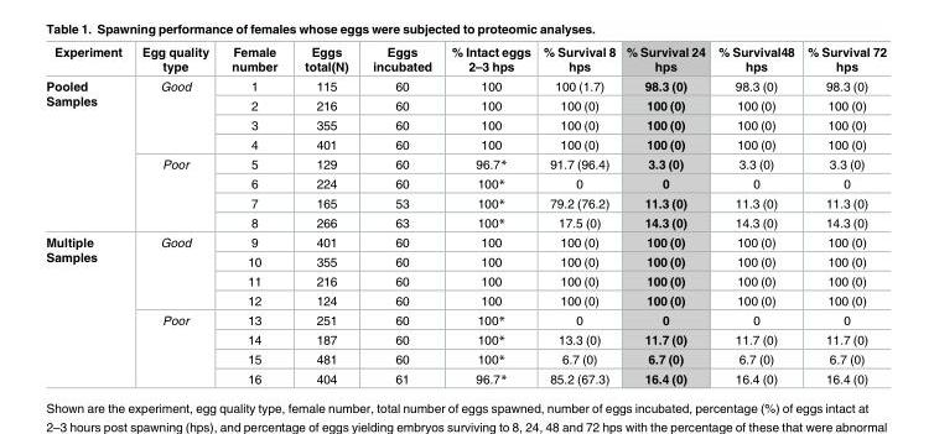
<table><thead><tr><td>Experiment</td><td>Egg quality type</td><td>Female number</td><td>Eggs total(N)</td><td>Eggs incubated</td><td>% Intact eggs 2–3 hps</td><td>% Survival 8 hps</td><td>% Survival 24 hps</td><td>% Survival48 hps</td><td>% Survival 72 hps</td></tr></thead><tbody><tr><td rowspan="8">Pooled Samples</td><td rowspan="4">Good</td><td>1</td><td>115</td><td>60</td><td>100</td><td>100 (1.7)</td><td>98.3 (0)</td><td>98.3 (0)</td><td>98.3 (0)</td></tr><tr><td>2</td><td>216</td><td>60</td><td>100</td><td>100 (0)</td><td>100 (0)</td><td>100 (0)</td><td>100 (0)</td></tr><tr><td>3</td><td>355</td><td>60</td><td>100</td><td>100 (0)</td><td>100 (0)</td><td>100 (0)</td><td>100 (0)</td></tr><tr><td>4</td><td>401</td><td>60</td><td>100</td><td>100 (0)</td><td>100 (0)</td><td>100 (0)</td><td>100 (0)</td></tr><tr><td rowspan="4">Poor</td><td>5</td><td>129</td><td>60</td><td>96.7*</td><td>91.7 (96.4)</td><td>3.3 (0)</td><td>3.3 (0)</td><td>3.3 (0)</td></tr><tr><td>6</td><td>224</td><td>60</td><td>100*</td><td>0</td><td>0</td><td>0</td><td>0</td></tr><tr><td>7</td><td>165</td><td>53</td><td>100*</td><td>79.2 (76.2)</td><td>11.3 (0)</td><td>11.3 (0)</td><td>11.3 (0)</td></tr><tr><td>8</td><td>266</td><td>63</td><td>100*</td><td>17.5 (0)</td><td>14.3 (0)</td><td>14.3 (0)</td><td>14.3 (0)</td></tr><tr><td rowspan="8">Multiple Samples</td><td rowspan="4">Good</td><td>9</td><td>401</td><td>60</td><td>100</td><td>100 (0)</td><td>100 (0)</td><td>100 (0)</td><td>100 (0)</td></tr><tr><td>10</td><td>355</td><td>60</td><td>100</td><td>100 (0)</td><td>100 (0)</td><td>100 (0)</td><td>100 (0)</td></tr><tr><td>11</td><td>216</td><td>60</td><td>100</td><td>100 (0)</td><td>100 (0)</td><td>100 (0)</td><td>100 (0)</td></tr><tr><td>12</td><td>124</td><td>60</td><td>100</td><td>100 (0)</td><td>100 (0)</td><td>100 (0)</td><td>100 (0)</td></tr><tr><td rowspan="4">Poor</td><td>13</td><td>251</td><td>60</td><td>100*</td><td>0</td><td>0</td><td>0</td><td>0</td></tr><tr><td>14</td><td>187</td><td>60</td><td>100*</td><td>13.3 (0)</td><td>11.7 (0)</td><td>11.7 (0)</td><td>11.7 (0)</td></tr><tr><td>15</td><td>481</td><td>60</td><td>100*</td><td>6.7 (0)</td><td>6.7 (0)</td><td>6.7 (0)</td><td>6.7 (0)</td></tr><tr><td>16</td><td>404</td><td>61</td><td>96.7*</td><td>85.2 (67.3)</td><td>16.4 (0)</td><td>16.4 (0)</td><td>16.4 (0)</td></tr></tbody></table>